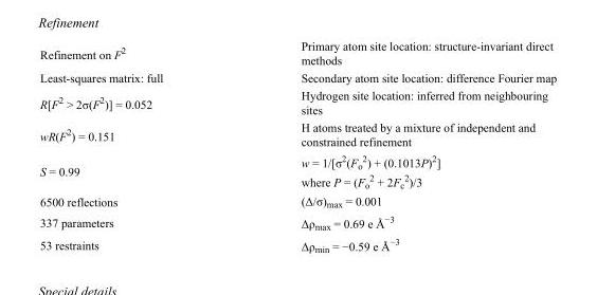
<table><tbody><tr><td>Refinement on F<sup>2</sup></td><td>Primary atom site location: structure-invariant direct methods</td></tr><tr><td>Least-squares matrix: full</td><td>Secondary atom site location: difference Fourier map</td></tr><tr><td>R[F<sup>2</sup> &gt; 2σ(F<sup>2</sup>)] = 0.052</td><td>Hydrogen site location: inferred from neighbouring sites</td></tr><tr><td>wR(F<sup>2</sup>) = 0.151</td><td>H atoms treated by a mixture of independent and constrained refinement</td></tr><tr><td>S = 0.99</td><td>w = 1/[σ<sup>2</sup>(F<sub>o</sub> <sup>2</sup>) + (0.1013P)<sup>2</sup>] where P = (F<sub>o</sub> <sup>2</sup> + 2F<sub>c</sub> <sup>2</sup>)/3</td></tr><tr><td>6500 reflections</td><td>(Δ/σ)<sub>max</sub> = 0.001</td></tr><tr><td>337 parameters</td><td>Δρ<sub>max</sub> = 0.69 e Å<sup>−3</sup></td></tr><tr><td>53 restraints</td><td>Δρ<sub>min</sub> = −0.59 e Å<sup>−3</sup></td></tr></tbody></table>